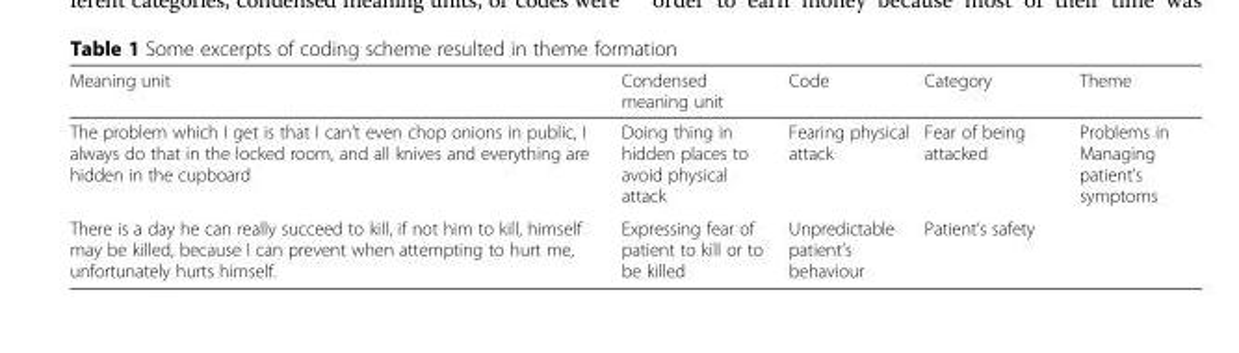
<table><thead><tr><td>Meaning unit</td><td>Condensed meaning unit</td><td>Code</td><td>Category</td><td>Theme</td></tr></thead><tbody><tr><td>The problem which I get is that I can’t even chop onions in public, I always do that in the locked room, and all knives and everything are hidden in the cupboard</td><td>Doing thing in hidden places to avoid physical attack</td><td>Fearing physical attack</td><td>Fear of being attacked</td><td rowspan="2">Problems in Managing patient’s symptoms</td></tr><tr><td>There is a day he can really succeed to kill, if not him to kill, himself may be killed, because I can prevent when attempting to hurt me, unfortunately hurts himself.</td><td>Expressing fear of patient to kill or to be killed</td><td>Unpredictable patient’s behaviour</td><td>Patient’s safety</td></tr></tbody></table>